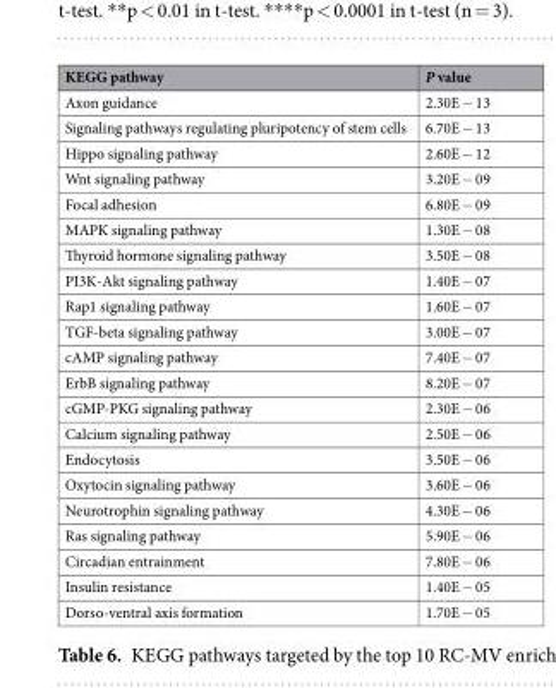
<table><thead><tr><td>KEGG pathway</td><td>P value</td></tr></thead><tbody><tr><td>Axon guidance</td><td>2.30E − 13</td></tr><tr><td>Signaling pathways regulating pluripotency of stem cells</td><td>6.70E − 13</td></tr><tr><td>Hippo signaling pathway</td><td>2.60E − 12</td></tr><tr><td>Wnt signaling pathway</td><td>3.20E − 09</td></tr><tr><td>Focal adhesion</td><td>6.80E − 09</td></tr><tr><td>MAPK signaling pathway</td><td>1.30E − 08</td></tr><tr><td>Thyroid hormone signaling pathway</td><td>3.50E − 08</td></tr><tr><td>PI3K-Akt signaling pathway</td><td>1.40E − 07</td></tr><tr><td>Rap1 signaling pathway</td><td>1.60E − 07</td></tr><tr><td>TGF-beta signaling pathway</td><td>3.00E − 07</td></tr><tr><td>cAMP signaling pathway</td><td>7.40E − 07</td></tr><tr><td>ErbB signaling pathway</td><td>8.20E − 07</td></tr><tr><td>cGMP-PKG signaling pathway</td><td>2.30E − 06</td></tr><tr><td>Calcium signaling pathway</td><td>2.50E − 06</td></tr><tr><td>Endocytosis</td><td>3.50E − 06</td></tr><tr><td>Oxytocin signaling pathway</td><td>3.60E − 06</td></tr><tr><td>Neurotrophin signaling pathway</td><td>4.30E − 06</td></tr><tr><td>Ras signaling pathway</td><td>5.90E − 06</td></tr><tr><td>Circadian entrainment</td><td>7.80E − 06</td></tr><tr><td>Insulin resistance</td><td>1.40E − 05</td></tr><tr><td>Dorso-ventral axis formation</td><td>1.70E − 05</td></tr></tbody></table>